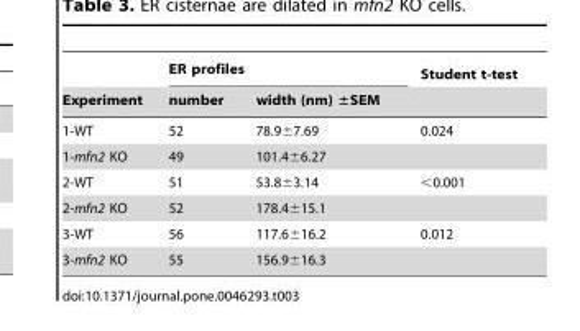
<table><thead><tr><td rowspan="2">Experiment</td><td colspan="2">ER profiles</td><td rowspan="2">Student t-test</td></tr><tr><td>number</td><td>width (nm) ±SEM</td></tr></thead><tbody><tr><td>1-WT</td><td>52</td><td>78.9±7.69</td><td>0.024</td></tr><tr><td>1-mfn2 KO</td><td>49</td><td>101.4±6.27</td><td></td></tr><tr><td>2-WT</td><td>51</td><td>53.8±3.14</td><td>&lt;0.001</td></tr><tr><td>2-mfn2 KO</td><td>52</td><td>178.4±15.1</td><td></td></tr><tr><td>3-WT</td><td>56</td><td>117.6±16.2</td><td>0.012</td></tr><tr><td>3-mfn2 KO</td><td>55</td><td>156.9±16.3</td><td></td></tr></tbody></table>